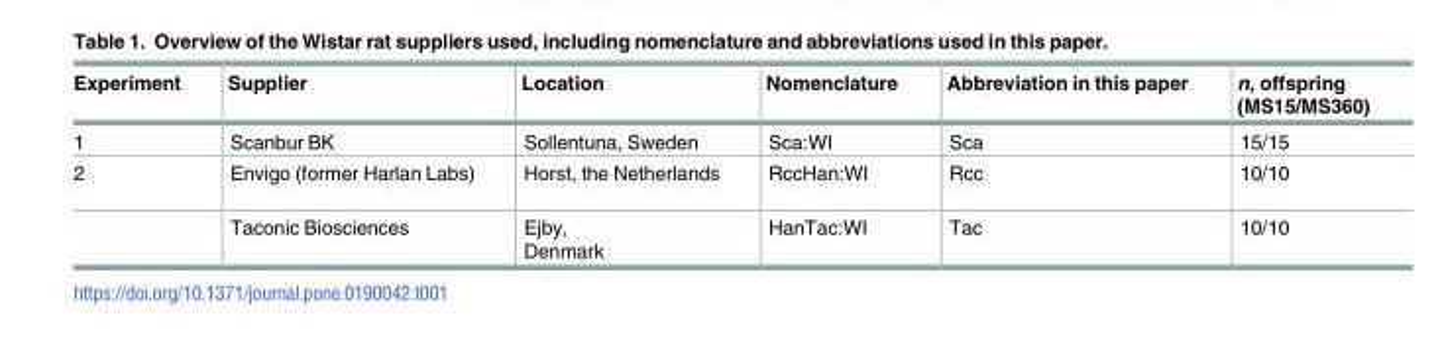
<table><thead><tr><td>Experiment</td><td>Supplier</td><td>Location</td><td>Nomenclature</td><td>Abbreviation in this paper</td><td>n, offspring (MS15/MS360)</td></tr></thead><tbody><tr><td>1</td><td>Scanbur BK</td><td>Sollentuna, Sweden</td><td>Sca:WI</td><td>Sca</td><td>15/15</td></tr><tr><td rowspan="2">2</td><td>Envigo (former Harlan Labs)</td><td>Horst, the Netherlands</td><td>RccHan:WI</td><td>Rcc</td><td>10/10</td></tr><tr><td>Taconic Biosciences</td><td>Ejby, Denmark</td><td>HanTac:WI</td><td>Tac</td><td>10/10</td></tr></tbody></table>